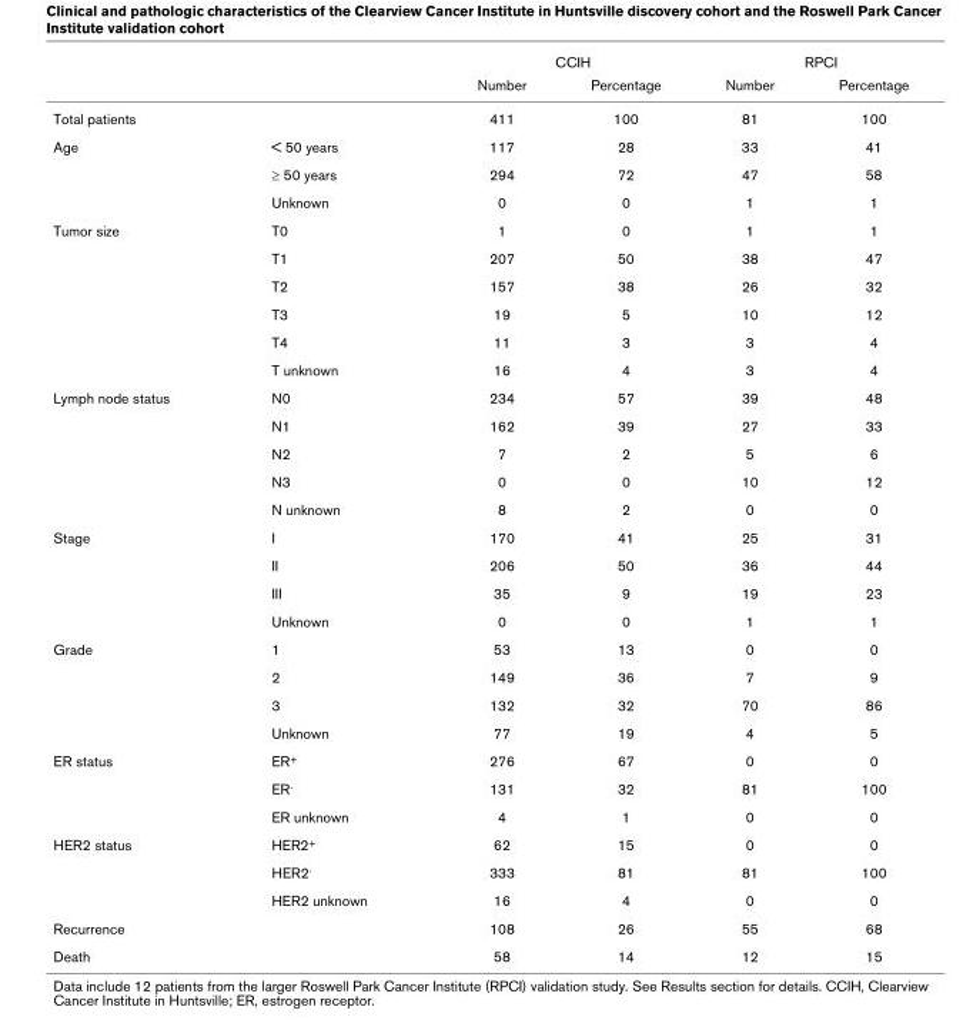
<table><thead><tr><td rowspan="2"></td><td rowspan="2"></td><td colspan="2">CCIH</td><td colspan="2">RPCI</td></tr><tr><td>Number</td><td>Percentage</td><td>Number</td><td>Percentage</td></tr></thead><tbody><tr><td>Total patients</td><td></td><td>411</td><td>100</td><td>81</td><td>100</td></tr><tr><td rowspan="3">Age</td><td>&lt; 50 years</td><td>117</td><td>28</td><td>33</td><td>41</td></tr><tr><td>≥ 50 years</td><td>294</td><td>72</td><td>47</td><td>58</td></tr><tr><td>Unknown</td><td>0</td><td>0</td><td>1</td><td>1</td></tr><tr><td rowspan="6">Tumor size</td><td>T0</td><td>1</td><td>0</td><td>1</td><td>1</td></tr><tr><td>T1</td><td>207</td><td>50</td><td>38</td><td>47</td></tr><tr><td>T2</td><td>157</td><td>38</td><td>26</td><td>32</td></tr><tr><td>T3</td><td>19</td><td>5</td><td>10</td><td>12</td></tr><tr><td>T4</td><td>11</td><td>3</td><td>3</td><td>4</td></tr><tr><td>T unknown</td><td>16</td><td>4</td><td>3</td><td>4</td></tr><tr><td rowspan="5">Lymph node status</td><td>N0</td><td>234</td><td>57</td><td>39</td><td>48</td></tr><tr><td>N1</td><td>162</td><td>39</td><td>27</td><td>33</td></tr><tr><td>N2</td><td>7</td><td>2</td><td>5</td><td>6</td></tr><tr><td>N3</td><td>0</td><td>0</td><td>10</td><td>12</td></tr><tr><td>N unknown</td><td>8</td><td>2</td><td>0</td><td>0</td></tr><tr><td rowspan="4">Stage</td><td>I</td><td>170</td><td>41</td><td>25</td><td>31</td></tr><tr><td>II</td><td>206</td><td>50</td><td>36</td><td>44</td></tr><tr><td>III</td><td>35</td><td>9</td><td>19</td><td>23</td></tr><tr><td>Unknown</td><td>0</td><td>0</td><td>1</td><td>1</td></tr><tr><td rowspan="4">Grade</td><td>1</td><td>53</td><td>13</td><td>0</td><td>0</td></tr><tr><td>2</td><td>149</td><td>36</td><td>7</td><td>9</td></tr><tr><td>3</td><td>132</td><td>32</td><td>70</td><td>86</td></tr><tr><td>Unknown</td><td>77</td><td>19</td><td>4</td><td>5</td></tr><tr><td rowspan="3">ER status</td><td>ER<sup>+</sup></td><td>276</td><td>67</td><td>0</td><td>0</td></tr><tr><td>ER<sup>-</sup></td><td>131</td><td>32</td><td>81</td><td>100</td></tr><tr><td>ER unknown</td><td>4</td><td>1</td><td>0</td><td>0</td></tr><tr><td rowspan="3">HER2 status</td><td>HER2<sup>+</sup></td><td>62</td><td>15</td><td>0</td><td>0</td></tr><tr><td>HER2<sup>-</sup></td><td>333</td><td>81</td><td>81</td><td>100</td></tr><tr><td>HER2 unknown</td><td>16</td><td>4</td><td>0</td><td>0</td></tr><tr><td>Recurrence</td><td></td><td>108</td><td>26</td><td>55</td><td>68</td></tr><tr><td>Death</td><td></td><td>58</td><td>14</td><td>12</td><td>15</td></tr></tbody></table>